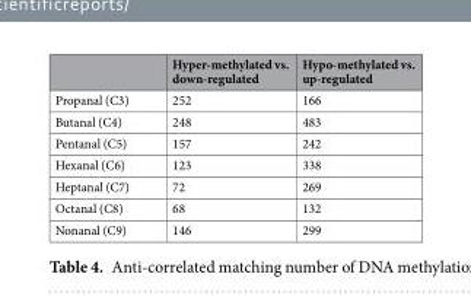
<table><thead><tr><td></td><td>Hyper-methylated vs. down-regulated</td><td>Hypo-methylated vs. up-regulated</td></tr></thead><tbody><tr><td>Propanal (C3)</td><td>252</td><td>166</td></tr><tr><td>Butanal (C4)</td><td>248</td><td>483</td></tr><tr><td>Pentanal (C5)</td><td>157</td><td>242</td></tr><tr><td>Hexanal (C6)</td><td>123</td><td>338</td></tr><tr><td>Heptanal (C7)</td><td>72</td><td>269</td></tr><tr><td>Octanal (C8)</td><td>68</td><td>132</td></tr><tr><td>Nonanal (C9)</td><td>146</td><td>299</td></tr></tbody></table>